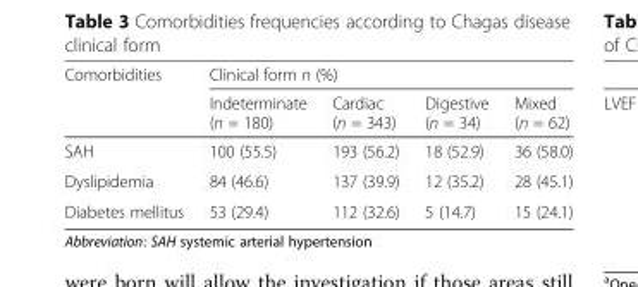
<table><thead><tr><td rowspan="2">Comorbidities</td><td colspan="4">Clinical form n (%)</td></tr><tr><td>Indeterminate (n = 180)</td><td>Cardiac (n = 343)</td><td>Digestive (n = 34)</td><td>Mixed (n = 62)</td></tr></thead><tbody><tr><td>SAH</td><td>100 (55.5)</td><td>193 (56.2)</td><td>18 (52.9)</td><td>36 (58.0)</td></tr><tr><td>Dyslipidemia</td><td>84 (46.6)</td><td>137 (39.9)</td><td>12 (35.2)</td><td>28 (45.1)</td></tr><tr><td>Diabetes mellitus</td><td>53 (29.4)</td><td>112 (32.6)</td><td>5 (14.7)</td><td>15 (24.1)</td></tr></tbody></table>